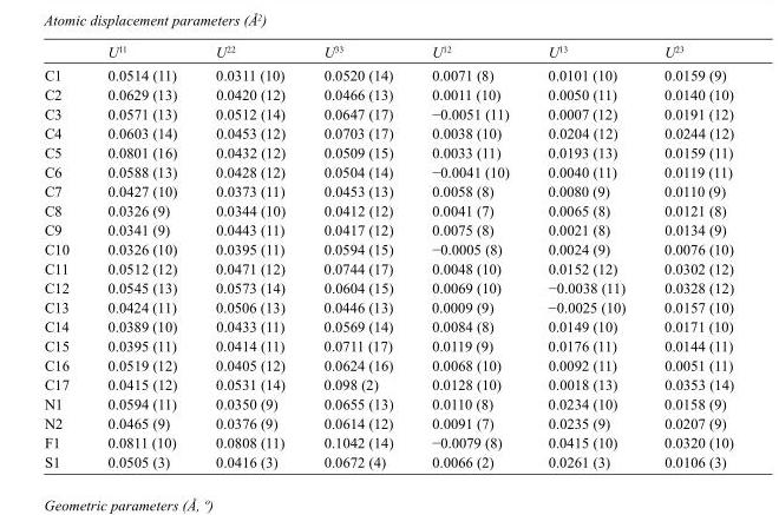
<table><thead><tr><td></td><td>U<sup>11</sup></td><td>U<sup>22</sup></td><td>U<sup>33</sup></td><td>U<sup>12</sup></td><td>U<sup>13</sup></td><td>U<sup>23</sup></td></tr></thead><tbody><tr><td>C1</td><td>0.0514 (11)</td><td>0.0311 (10)</td><td>0.0520 (14)</td><td>0.0071 (8)</td><td>0.0101 (10)</td><td>0.0159 (9)</td></tr><tr><td>C2</td><td>0.0629 (13)</td><td>0.0420 (12)</td><td>0.0466 (13)</td><td>0.0011 (10)</td><td>0.0050 (11)</td><td>0.0140 (10)</td></tr><tr><td>C3</td><td>0.0571 (13)</td><td>0.0512 (14)</td><td>0.0647 (17)</td><td>−0.0051 (11)</td><td>0.0007 (12)</td><td>0.0191 (12)</td></tr><tr><td>C4</td><td>0.0603 (14)</td><td>0.0453 (12)</td><td>0.0703 (17)</td><td>0.0038 (10)</td><td>0.0204 (12)</td><td>0.0244 (12)</td></tr><tr><td>C5</td><td>0.0801 (16)</td><td>0.0432 (12)</td><td>0.0509 (15)</td><td>0.0033 (11)</td><td>0.0193 (13)</td><td>0.0159 (11)</td></tr><tr><td>C6</td><td>0.0588 (13)</td><td>0.0428 (12)</td><td>0.0504 (14)</td><td>−0.0041 (10)</td><td>0.0040 (11)</td><td>0.0119 (11)</td></tr><tr><td>C7</td><td>0.0427 (10)</td><td>0.0373 (11)</td><td>0.0453 (13)</td><td>0.0058 (8)</td><td>0.0080 (9)</td><td>0.0110 (9)</td></tr><tr><td>C8</td><td>0.0326 (9)</td><td>0.0344 (10)</td><td>0.0412 (12)</td><td>0.0041 (7)</td><td>0.0065 (8)</td><td>0.0121 (8)</td></tr><tr><td>C9</td><td>0.0341 (9)</td><td>0.0443 (11)</td><td>0.0417 (12)</td><td>0.0075 (8)</td><td>0.0021 (8)</td><td>0.0134 (9)</td></tr><tr><td>C10</td><td>0.0326 (10)</td><td>0.0395 (11)</td><td>0.0594 (15)</td><td>−0.0005 (8)</td><td>0.0024 (9)</td><td>0.0076 (10)</td></tr><tr><td>C11</td><td>0.0512 (12)</td><td>0.0471 (12)</td><td>0.0744 (17)</td><td>0.0048 (10)</td><td>0.0152 (12)</td><td>0.0302 (12)</td></tr><tr><td>C12</td><td>0.0545 (13)</td><td>0.0573 (14)</td><td>0.0604 (15)</td><td>0.0069 (10)</td><td>−0.0038 (11)</td><td>0.0328 (12)</td></tr><tr><td>C13</td><td>0.0424 (11)</td><td>0.0506 (13)</td><td>0.0446 (13)</td><td>0.0009 (9)</td><td>−0.0025 (10)</td><td>0.0157 (10)</td></tr><tr><td>C14</td><td>0.0389 (10)</td><td>0.0433 (11)</td><td>0.0569 (14)</td><td>0.0084 (8)</td><td>0.0149 (10)</td><td>0.0171 (10)</td></tr><tr><td>C15</td><td>0.0395 (11)</td><td>0.0414 (11)</td><td>0.0711 (17)</td><td>0.0119 (9)</td><td>0.0176 (11)</td><td>0.0144 (11)</td></tr><tr><td>C16</td><td>0.0519 (12)</td><td>0.0405 (12)</td><td>0.0624 (16)</td><td>0.0068 (10)</td><td>0.0092 (11)</td><td>0.0051 (11)</td></tr><tr><td>C17</td><td>0.0415 (12)</td><td>0.0531 (14)</td><td>0.098 (2)</td><td>0.0128 (10)</td><td>0.0018 (13)</td><td>0.0353 (14)</td></tr><tr><td>N1</td><td>0.0594 (11)</td><td>0.0350 (9)</td><td>0.0655 (13)</td><td>0.0110 (8)</td><td>0.0234 (10)</td><td>0.0158 (9)</td></tr><tr><td>N2</td><td>0.0465 (9)</td><td>0.0376 (9)</td><td>0.0614 (12)</td><td>0.0091 (7)</td><td>0.0235 (9)</td><td>0.0207 (9)</td></tr><tr><td>F1</td><td>0.0811 (10)</td><td>0.0808 (11)</td><td>0.1042 (14)</td><td>−0.0079 (8)</td><td>0.0415 (10)</td><td>0.0320 (10)</td></tr><tr><td>S1</td><td>0.0505 (3)</td><td>0.0416 (3)</td><td>0.0672 (4)</td><td>0.0066 (2)</td><td>0.0261 (3)</td><td>0.0106 (3)</td></tr></tbody></table>